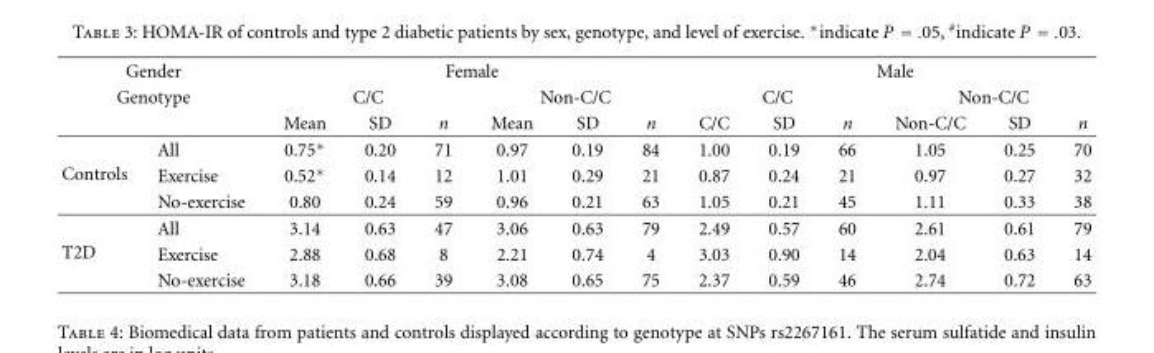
<table><thead><tr><td rowspan="2" colspan="2">Gender Genotype</td><td colspan="6">Female</td><td colspan="6">Male</td></tr><tr><td colspan="3">C/C</td><td colspan="3">Non-C/C</td><td colspan="3">C/C</td><td colspan="3">Non-C/C</td></tr><tr><td></td><td></td><td>Mean</td><td>SD</td><td>n</td><td>Mean</td><td>SD</td><td>n</td><td>C/C</td><td>SD</td><td>n</td><td>Non-C/C</td><td>SD</td><td>n</td></tr></thead><tbody><tr><td rowspan="3">Controls</td><td>All</td><td>0.75∗</td><td>0.20</td><td>71</td><td>0.97</td><td>0.19</td><td>84</td><td>1.00</td><td>0.19</td><td>66</td><td>1.05</td><td>0.25</td><td>70</td></tr><tr><td>Exercise</td><td>0.52∗</td><td>0.14</td><td>12</td><td>1.01</td><td>0.29</td><td>21</td><td>0.87</td><td>0.24</td><td>21</td><td>0.97</td><td>0.27</td><td>32</td></tr><tr><td>No-exercise</td><td>0.80</td><td>0.24</td><td>59</td><td>0.96</td><td>0.21</td><td>63</td><td>1.05</td><td>0.21</td><td>45</td><td>1.11</td><td>0.33</td><td>38</td></tr><tr><td rowspan="3">T2D</td><td>All</td><td>3.14</td><td>0.63</td><td>47</td><td>3.06</td><td>0.63</td><td>79</td><td>2.49</td><td>0.57</td><td>60</td><td>2.61</td><td>0.61</td><td>79</td></tr><tr><td>Exercise</td><td>2.88</td><td>0.68</td><td>8</td><td>2.21</td><td>0.74</td><td>4</td><td>3.03</td><td>0.90</td><td>14</td><td>2.04</td><td>0.63</td><td>14</td></tr><tr><td>No-exercise</td><td>3.18</td><td>0.66</td><td>39</td><td>3.08</td><td>0.65</td><td>75</td><td>2.37</td><td>0.59</td><td>46</td><td>2.74</td><td>0.72</td><td>63</td></tr></tbody></table>